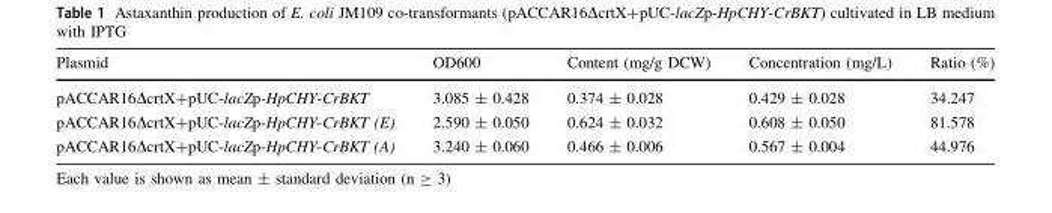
<table><thead><tr><td>Plasmid</td><td>OD600</td><td>Content (mg/g DCW)</td><td>Concentration (mg/L)</td><td>Ratio (%)</td></tr></thead><tbody><tr><td>pACCAR16ΔcrtX+pUC-lacZp-HpCHY-CrBKT</td><td>3.085 ± 0.428</td><td>0.374 ± 0.028</td><td>0.429 ± 0.028</td><td>34.247</td></tr><tr><td>pACCAR16ΔcrtX+pUC-lacZp-HpCHY-CrBKT (E)</td><td>2.590 ± 0.050</td><td>0.624 ± 0.032</td><td>0.608 ± 0.050</td><td>81.578</td></tr><tr><td>pACCAR16ΔcrtX+pUC-lacZp-HpCHY-CrBKT (A)</td><td>3.240 ± 0.060</td><td>0.466 ± 0.006</td><td>0.567 ± 0.004</td><td>44.976</td></tr></tbody></table>